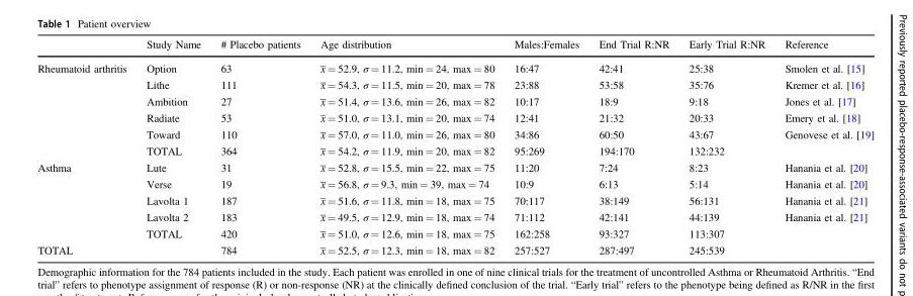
<table><thead><tr><td></td><td>Study Name</td><td># Placebo patients</td><td>Age distribution</td><td>Males:Females</td><td>End Trial R:NR</td><td>Early Trial R:NR</td><td>Reference</td></tr></thead><tbody><tr><td rowspan="6">Rheumatoid arthritis</td><td>Option</td><td>63</td><td>x̅= 52.9, σ = 11.2, min = 24, max = 80</td><td>16:47</td><td>42:41</td><td>25:38</td><td>Smolen et al. [15]</td></tr><tr><td>Lithe</td><td>111</td><td>x̅= 54.3, σ = 11.5, min = 20, max = 78</td><td>23:88</td><td>53:58</td><td>35:76</td><td>Kremer et al. [16]</td></tr><tr><td>Ambition</td><td>27</td><td>x̅= 51.4, σ = 13.6, min = 26, max = 82</td><td>10:17</td><td>18:9</td><td>9:18</td><td>Jones et al. [17]</td></tr><tr><td>Radiate</td><td>53</td><td>x̅= 51.0, σ = 13.1, min = 20, max = 74</td><td>12:41</td><td>21:32</td><td>20:33</td><td>Emery et al. [18]</td></tr><tr><td>Toward</td><td>110</td><td>x̅= 57.0, σ = 11.0, min = 26, max = 80</td><td>34:86</td><td>60:50</td><td>43:67</td><td>Genovese et al. [19]</td></tr><tr><td>TOTAL</td><td>364</td><td>x̅= 54.2, σ = 11.9, min = 20, max = 82</td><td>95:269</td><td>194:170</td><td>132:232</td><td></td></tr><tr><td rowspan="5">Asthma</td><td>Lute</td><td>31</td><td>x̅= 52.8, σ = 15.5, min = 22, max = 75</td><td>11:20</td><td>7:24</td><td>8:23</td><td>Hanania et al. [20]</td></tr><tr><td>Verse</td><td>19</td><td>x̅= 56.8, σ = 9.3, min = 39, max = 74</td><td>10:9</td><td>6:13</td><td>5:14</td><td>Hanania et al. [20]</td></tr><tr><td>Lavolta 1</td><td>187</td><td>x̅= 51.6, σ = 11.8, min = 18, max = 75</td><td>70:117</td><td>38:149</td><td>56:131</td><td>Hanania et al. [21]</td></tr><tr><td>Lavolta 2</td><td>183</td><td>x̅= 49.5, σ = 12.9, min = 18, max = 74</td><td>71:112</td><td>42:141</td><td>44:139</td><td>Hanania et al. [21]</td></tr><tr><td>TOTAL</td><td>420</td><td>x̅= 51.0, σ = 12.6, min = 18, max = 75</td><td>162:258</td><td>93:327</td><td>113:307</td><td></td></tr><tr><td>TOTAL</td><td></td><td>784</td><td>x̅= 52.5, σ = 12.3, min = 18, max = 82</td><td>257:527</td><td>287:497</td><td>245:539</td><td></td></tr></tbody></table>